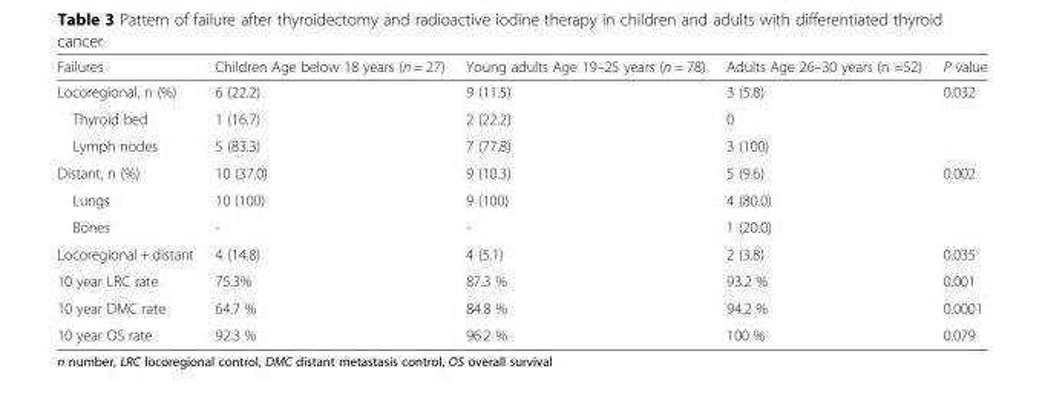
<table><thead><tr><td>Failures</td><td>Children Age below 18 years (n = 27)</td><td>Young adults Age 19–25 years (n = 78)</td><td>Adults Age 26–30 years (n =52)</td><td>P value</td></tr></thead><tbody><tr><td>Locoregional, n (%)</td><td>6 (22.2)</td><td>9 (11.5)</td><td>3 (5.8)</td><td rowspan="3">0.032</td></tr><tr><td>Thyroid bed</td><td>1 (16.7)</td><td>2 (22.2)</td><td>0</td></tr><tr><td>Lymph nodes</td><td>5 (83.3)</td><td>7 (77.8)</td><td>3 (100)</td></tr><tr><td>Distant, n (%)</td><td>10 (37.0)</td><td>9 (10.3)</td><td>5 (9.6)</td><td rowspan="3">0.002</td></tr><tr><td>Lungs</td><td>10 (100)</td><td>9 (100)</td><td>4 (80.0)</td></tr><tr><td>Bones</td><td>-</td><td>-</td><td>1 (20.0)</td></tr><tr><td>Locoregional + distant</td><td>4 (14.8)</td><td>4 (5.1)</td><td>2 (3.8)</td><td>0.035</td></tr><tr><td>10 year LRC rate</td><td>75.3%</td><td>87.3 %</td><td>93.2 %</td><td>0.001</td></tr><tr><td>10 year DMC rate</td><td>64.7 %</td><td>84.8 %</td><td>94.2 %</td><td>0.0001</td></tr><tr><td>10 year OS rate</td><td>92.3 %</td><td>96.2 %</td><td>100 %</td><td>0.079</td></tr></tbody></table>